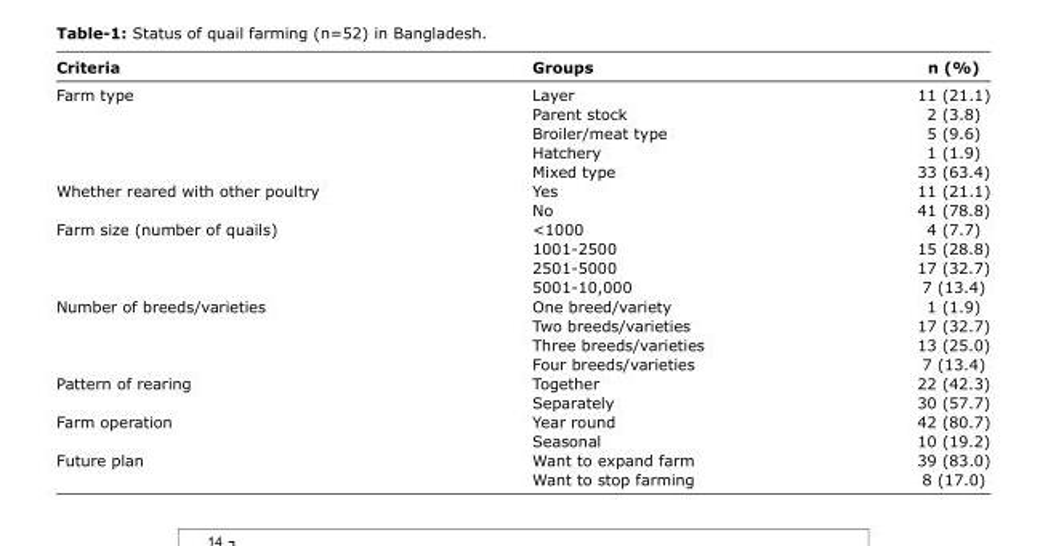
<table><thead><tr><td>Criteria</td><td>Groups</td><td>n (%)</td></tr></thead><tbody><tr><td rowspan="5">Farm type</td><td>Layer</td><td>11 (21.1)</td></tr><tr><td>Parent stock</td><td>2 (3.8)</td></tr><tr><td>Broiler/meat type</td><td>5 (9.6)</td></tr><tr><td>Hatchery</td><td>1 (1.9)</td></tr><tr><td>Mixed type</td><td>33 (63.4)</td></tr><tr><td rowspan="2">Whether reared with other poultry</td><td>Yes</td><td>11 (21.1)</td></tr><tr><td>No</td><td>41 (78.8)</td></tr><tr><td rowspan="4">Farm size (number of quails)</td><td>&lt;1000</td><td>4 (7.7)</td></tr><tr><td>1001-2500</td><td>15 (28.8)</td></tr><tr><td>2501-5000</td><td>17 (32.7)</td></tr><tr><td>5001-10,000</td><td>7 (13.4)</td></tr><tr><td rowspan="4">Number of breeds/varieties</td><td>One breed/variety</td><td>1 (1.9)</td></tr><tr><td>Two breeds/varieties</td><td>17 (32.7)</td></tr><tr><td>Three breeds/varieties</td><td>13 (25.0)</td></tr><tr><td>Four breeds/varieties</td><td>7 (13.4)</td></tr><tr><td rowspan="2">Pattern of rearing</td><td>Together</td><td>22 (42.3)</td></tr><tr><td>Separately</td><td>30 (57.7)</td></tr><tr><td rowspan="2">Farm operation</td><td>Year round</td><td>42 (80.7)</td></tr><tr><td>Seasonal</td><td>10 (19.2)</td></tr><tr><td rowspan="2">Future plan</td><td>Want to expand farm</td><td>39 (83.0)</td></tr><tr><td>Want to stop farming</td><td>8 (17.0)</td></tr></tbody></table>